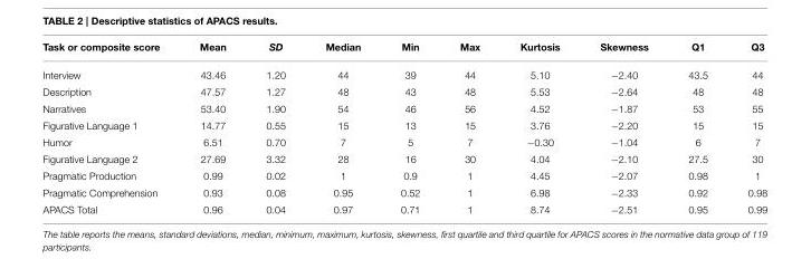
<table><thead><tr><td>Task or composite score</td><td>Mean</td><td>SD</td><td>Median</td><td>Min</td><td>Max</td><td>Kurtosis</td><td>Skewness</td><td>Q1</td><td>Q3</td></tr></thead><tbody><tr><td>Interview</td><td>43.46</td><td>1.20</td><td>44</td><td>39</td><td>44</td><td>5.10</td><td>−2.40</td><td>43.5</td><td>44</td></tr><tr><td>Description</td><td>47.57</td><td>1.27</td><td>48</td><td>43</td><td>48</td><td>5.53</td><td>−2.64</td><td>48</td><td>48</td></tr><tr><td>Narratives</td><td>53.40</td><td>1.90</td><td>54</td><td>46</td><td>56</td><td>4.52</td><td>−1.87</td><td>53</td><td>55</td></tr><tr><td>Figurative Language 1</td><td>14.77</td><td>0.55</td><td>15</td><td>13</td><td>15</td><td>3.76</td><td>−2.20</td><td>15</td><td>15</td></tr><tr><td>Humor</td><td>6.51</td><td>0.70</td><td>7</td><td>5</td><td>7</td><td>−0.30</td><td>−1.04</td><td>6</td><td>7</td></tr><tr><td>Figurative Language 2</td><td>27.69</td><td>3.32</td><td>28</td><td>16</td><td>30</td><td>4.04</td><td>−2.10</td><td>27.5</td><td>30</td></tr><tr><td>Pragmatic Production</td><td>0.99</td><td>0.02</td><td>1</td><td>0.9</td><td>1</td><td>4.45</td><td>−2.07</td><td>0.98</td><td>1</td></tr><tr><td>Pragmatic Comprehension</td><td>0.93</td><td>0.08</td><td>0.95</td><td>0.52</td><td>1</td><td>6.98</td><td>−2.33</td><td>0.92</td><td>0.98</td></tr><tr><td>APACS Total</td><td>0.96</td><td>0.04</td><td>0.97</td><td>0.71</td><td>1</td><td>8.74</td><td>−2.51</td><td>0.95</td><td>0.99</td></tr></tbody></table>